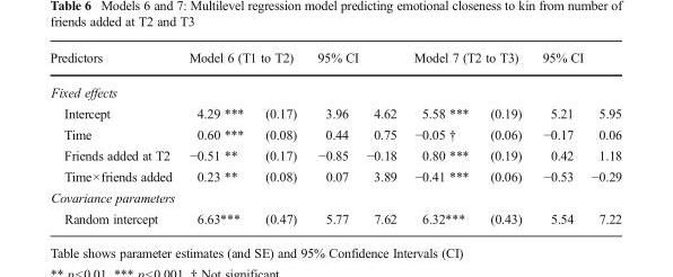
<table><thead><tr><td>Predictors</td><td colspan="2">Model 6 (T1 to T2)</td><td colspan="2">95% CI</td><td colspan="2">Model 7 (T2 to T3)</td><td colspan="2">95% CI</td></tr><tr><td colspan="9">Fixed effects</td></tr><tr><td>Intercept</td><td>4.29 ***</td><td>(0.17)</td><td>3.96</td><td>4.62</td><td>5.58 ***</td><td>(0.19)</td><td>5.21</td><td>5.95</td></tr></thead><tbody><tr><td>Time</td><td>0.60 ***</td><td>(0.08)</td><td>0.44</td><td>0.75</td><td>−0.05 †</td><td>(0.06)</td><td>−0.17</td><td>0.06</td></tr><tr><td>Friends added at T2</td><td>−0.51 **</td><td>(0.17)</td><td>−0.85</td><td>−0.18</td><td>0.80 ***</td><td>(0.19)</td><td>0.42</td><td>1.18</td></tr><tr><td>Time×friends added</td><td>0.23 **</td><td>(0.08)</td><td>0.07</td><td>3.89</td><td>−0.41 ***</td><td>(0.06)</td><td>−0.53</td><td>−0.29</td></tr><tr><td colspan="9">Covariance parameters</td></tr><tr><td>Random intercept</td><td>6.63***</td><td>(0.47)</td><td>5.77</td><td>7.62</td><td>6.32***</td><td>(0.43)</td><td>5.54</td><td>7.22</td></tr></tbody></table>